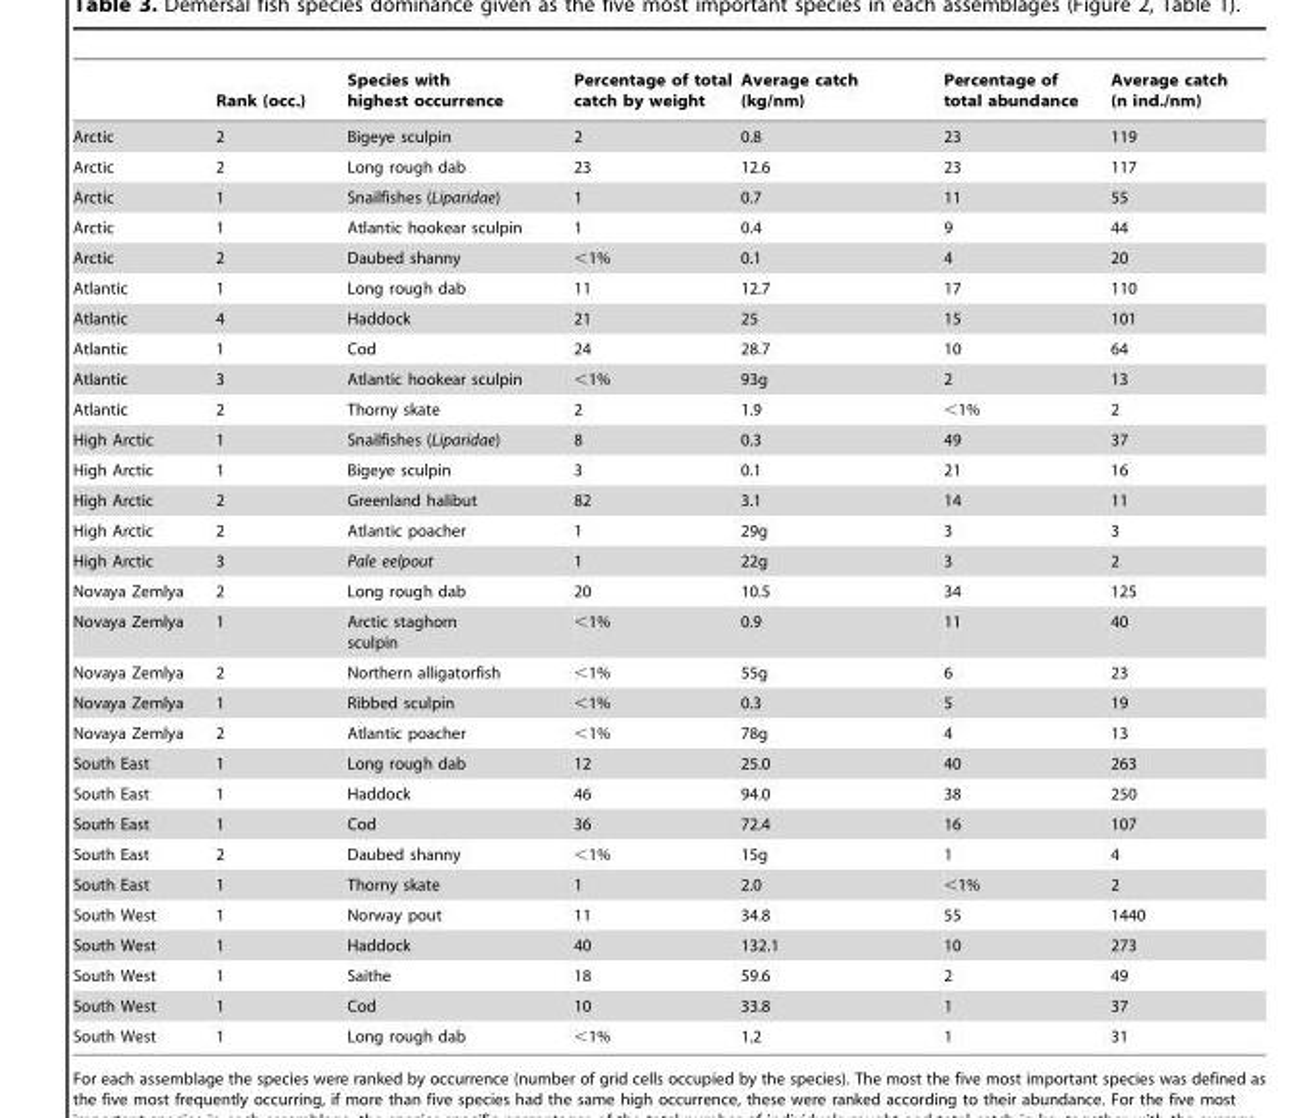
<table><thead><tr><td></td><td>Rank (occ.)</td><td>Species with highest occurrence</td><td>Percentage of total catch by weight</td><td>Average catch (kg/nm)</td><td>Percentage of total abundance</td><td>Average catch (n ind./nm)</td></tr></thead><tbody><tr><td>Arctic</td><td>2</td><td>Bigeye sculpin</td><td>2</td><td>0.8</td><td>23</td><td>119</td></tr><tr><td>Arctic</td><td>2</td><td>Long rough dab</td><td>23</td><td>12.6</td><td>23</td><td>117</td></tr><tr><td>Arctic</td><td>1</td><td>Snailfishes (Liparidae)</td><td>1</td><td>0.7</td><td>11</td><td>55</td></tr><tr><td>Arctic</td><td>1</td><td>Atlantic hookear sculpin</td><td>1</td><td>0.4</td><td>9</td><td>44</td></tr><tr><td>Arctic</td><td>2</td><td>Daubed shanny</td><td>&lt;1%</td><td>0.1</td><td>4</td><td>20</td></tr><tr><td>Atlantic</td><td>1</td><td>Long rough dab</td><td>11</td><td>12.7</td><td>17</td><td>110</td></tr><tr><td>Atlantic</td><td>4</td><td>Haddock</td><td>21</td><td>25</td><td>15</td><td>101</td></tr><tr><td>Atlantic</td><td>1</td><td>Cod</td><td>24</td><td>28.7</td><td>10</td><td>64</td></tr><tr><td>Atlantic</td><td>3</td><td>Atlantic hookear sculpin</td><td>&lt;1%</td><td>93g</td><td>2</td><td>13</td></tr><tr><td>Atlantic</td><td>2</td><td>Thorny skate</td><td>2</td><td>1.9</td><td>&lt;1%</td><td>2</td></tr><tr><td>High Arctic</td><td>1</td><td>Snailfishes (Liparidae)</td><td>8</td><td>0.3</td><td>49</td><td>37</td></tr><tr><td>High Arctic</td><td>1</td><td>Bigeye sculpin</td><td>3</td><td>0.1</td><td>21</td><td>16</td></tr><tr><td>High Arctic</td><td>2</td><td>Greenland halibut</td><td>82</td><td>3.1</td><td>14</td><td>11</td></tr><tr><td>High Arctic</td><td>2</td><td>Atlantic poacher</td><td>1</td><td>29g</td><td>3</td><td>3</td></tr><tr><td>High Arctic</td><td>3</td><td>Pale eelpout</td><td>1</td><td>22g</td><td>3</td><td>2</td></tr><tr><td>Novaya Zemlya</td><td>2</td><td>Long rough dab</td><td>20</td><td>10.5</td><td>34</td><td>125</td></tr><tr><td>Novaya Zemlya</td><td>1</td><td>Arctic staghorn sculpin</td><td>&lt;1%</td><td>0.9</td><td>11</td><td>40</td></tr><tr><td>Novaya Zemlya</td><td>2</td><td>Northern alligatorfish</td><td>&lt;1%</td><td>55g</td><td>6</td><td>23</td></tr><tr><td>Novaya Zemlya</td><td>1</td><td>Ribbed sculpin</td><td>&lt;1%</td><td>0.3</td><td>5</td><td>19</td></tr><tr><td>Novaya Zemlya</td><td>2</td><td>Atlantic poacher</td><td>&lt;1%</td><td>78g</td><td>4</td><td>13</td></tr><tr><td>South East</td><td>1</td><td>Long rough dab</td><td>12</td><td>25.0</td><td>40</td><td>263</td></tr><tr><td>South East</td><td>1</td><td>Haddock</td><td>46</td><td>94.0</td><td>38</td><td>250</td></tr><tr><td>South East</td><td>1</td><td>Cod</td><td>36</td><td>72.4</td><td>16</td><td>107</td></tr><tr><td>South East</td><td>2</td><td>Daubed shanny</td><td>&lt;1%</td><td>15g</td><td>1</td><td>4</td></tr><tr><td>South East</td><td>1</td><td>Thorny skate</td><td>1</td><td>2.0</td><td>&lt;1%</td><td>2</td></tr><tr><td>South West</td><td>1</td><td>Norway pout</td><td>11</td><td>34.8</td><td>55</td><td>1440</td></tr><tr><td>South West</td><td>1</td><td>Haddock</td><td>40</td><td>132.1</td><td>10</td><td>273</td></tr><tr><td>South West</td><td>1</td><td>Saithe</td><td>18</td><td>59.6</td><td>2</td><td>49</td></tr><tr><td>South West</td><td>1</td><td>Cod</td><td>10</td><td>33.8</td><td>1</td><td>37</td></tr><tr><td>South West</td><td>1</td><td>Long rough dab</td><td>&lt;1%</td><td>1.2</td><td>1</td><td>31</td></tr></tbody></table>